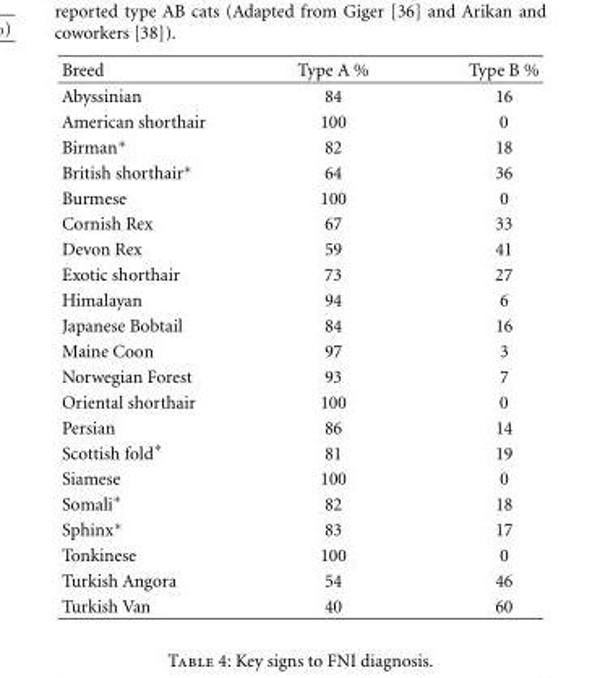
<table><thead><tr><td>Breed</td><td>Type A %</td><td>Type B %</td></tr></thead><tbody><tr><td>Abyssinian</td><td>84</td><td>16</td></tr><tr><td>American shorthair</td><td>100</td><td>0</td></tr><tr><td>Birman∗</td><td>82</td><td>18</td></tr><tr><td>British shorthair∗</td><td>64</td><td>36</td></tr><tr><td>Burmese</td><td>100</td><td>0</td></tr><tr><td>Cornish Rex</td><td>67</td><td>33</td></tr><tr><td>Devon Rex</td><td>59</td><td>41</td></tr><tr><td>Exotic shorthair</td><td>73</td><td>27</td></tr><tr><td>Himalayan</td><td>94</td><td>6</td></tr><tr><td>Japanese Bobtail</td><td>84</td><td>16</td></tr><tr><td>Maine Coon</td><td>97</td><td>3</td></tr><tr><td>Norwegian Forest</td><td>93</td><td>7</td></tr><tr><td>Oriental shorthair</td><td>100</td><td>0</td></tr><tr><td>Persian</td><td>86</td><td>14</td></tr><tr><td>Scottish fold∗</td><td>81</td><td>19</td></tr><tr><td>Siamese</td><td>100</td><td>0</td></tr><tr><td>Somali∗</td><td>82</td><td>18</td></tr><tr><td>Sphinx∗</td><td>83</td><td>17</td></tr><tr><td>Tonkinese</td><td>100</td><td>0</td></tr><tr><td>Turkish Angora</td><td>54</td><td>46</td></tr><tr><td>Turkish Van</td><td>40</td><td>60</td></tr></tbody></table>